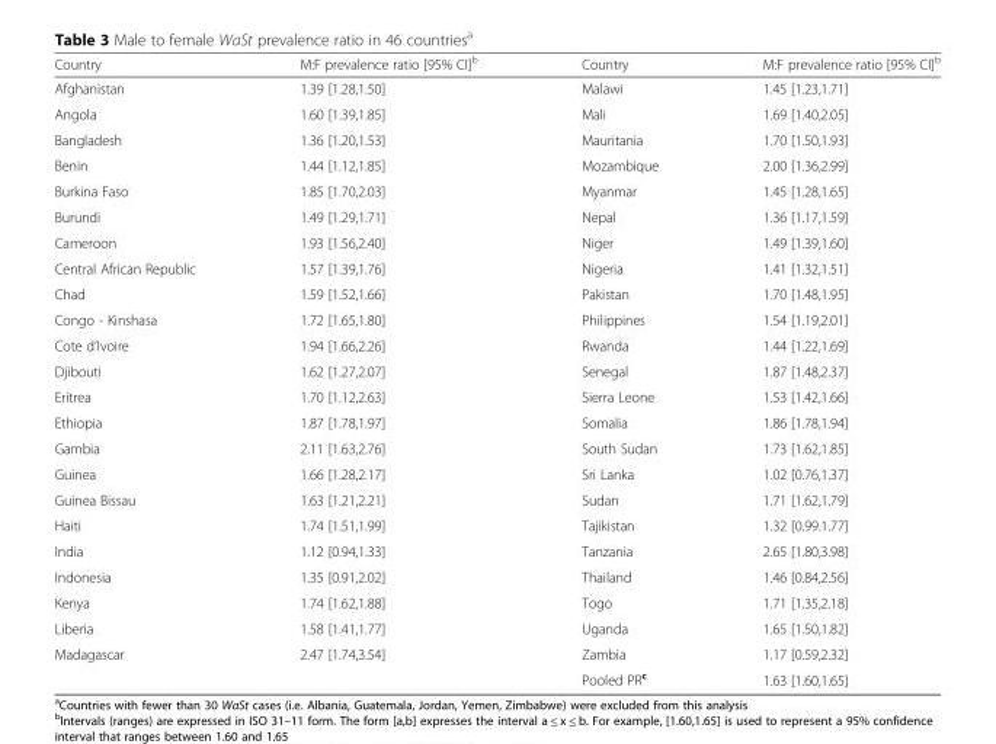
<table><thead><tr><td>Country</td><td>M:F prevalence ratio [95% CI]<sup>b</sup></td><td>Country</td><td>M:F prevalence ratio [95% CI]<sup>b</sup></td></tr></thead><tbody><tr><td>Afghanistan</td><td>1.39 [1.28,1.50]</td><td>Malawi</td><td>1.45 [1.23,1.71]</td></tr><tr><td>Angola</td><td>1.60 [1.39,1.85]</td><td>Mali</td><td>1.69 [1.40,2.05]</td></tr><tr><td>Bangladesh</td><td>1.36 [1.20,1.53]</td><td>Mauritania</td><td>1.70 [1.50,1.93]</td></tr><tr><td>Benin</td><td>1.44 [1.12,1.85]</td><td>Mozambique</td><td>2.00 [1.36,2.99]</td></tr><tr><td>Burkina Faso</td><td>1.85 [1.70,2.03]</td><td>Myanmar</td><td>1.45 [1.28,1.65]</td></tr><tr><td>Burundi</td><td>1.49 [1.29,1.71]</td><td>Nepal</td><td>1.36 [1.17,1.59]</td></tr><tr><td>Cameroon</td><td>1.93 [1.56,2.40]</td><td>Niger</td><td>1.49 [1.39,1.60]</td></tr><tr><td>Central African Republic</td><td>1.57 [1.39,1.76]</td><td>Nigeria</td><td>1.41 [1.32,1.51]</td></tr><tr><td>Chad</td><td>1.59 [1.52,1.66]</td><td>Pakistan</td><td>1.70 [1.48,1.95]</td></tr><tr><td>Congo - Kinshasa</td><td>1.72 [1.65,1.80]</td><td>Philippines</td><td>1.54 [1.19,2.01]</td></tr><tr><td>Cote d’Ivoire</td><td>1.94 [1.66,2.26]</td><td>Rwanda</td><td>1.44 [1.22,1.69]</td></tr><tr><td>Djibouti</td><td>1.62 [1.27,2.07]</td><td>Senegal</td><td>1.87 [1.48,2.37]</td></tr><tr><td>Eritrea</td><td>1.70 [1.12,2.63]</td><td>Sierra Leone</td><td>1.53 [1.42,1.66]</td></tr><tr><td>Ethiopia</td><td>1.87 [1.78,1.97]</td><td>Somalia</td><td>1.86 [1.78,1.94]</td></tr><tr><td>Gambia</td><td>2.11 [1.63,2.76]</td><td>South Sudan</td><td>1.73 [1.62,1.85]</td></tr><tr><td>Guinea</td><td>1.66 [1.28,2.17]</td><td>Sri Lanka</td><td>1.02 [0.76,1.37]</td></tr><tr><td>Guinea Bissau</td><td>1.63 [1.21,2.21]</td><td>Sudan</td><td>1.71 [1.62,1.79]</td></tr><tr><td>Haiti</td><td>1.74 [1.51,1.99]</td><td>Tajikistan</td><td>1.32 [0.99.1.77]</td></tr><tr><td>India</td><td>1.12 [0.94,1.33]</td><td>Tanzania</td><td>2.65 [1.80,3.98]</td></tr><tr><td>Indonesia</td><td>1.35 [0.91,2.02]</td><td>Thailand</td><td>1.46 [0.84,2.56]</td></tr><tr><td>Kenya</td><td>1.74 [1.62,1.88]</td><td>Togo</td><td>1.71 [1.35,2.18]</td></tr><tr><td>Liberia</td><td>1.58 [1.41,1.77]</td><td>Uganda</td><td>1.65 [1.50,1.82]</td></tr><tr><td rowspan="2">Madagascar</td><td>2.47 [1.74,3.54]</td><td>Zambia</td><td>1.17 [0.59,2.32]</td></tr><tr><td></td><td>Pooled PR<sup>c</sup></td><td>1.63 [1.60,1.65]</td></tr></tbody></table>